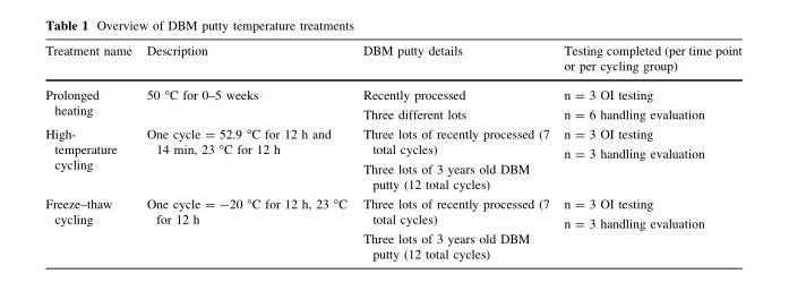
<table><thead><tr><td>Treatment name</td><td>Description</td><td>DBM putty details</td><td>Testing completed (per time point or per cycling group)</td></tr></thead><tbody><tr><td>Prolonged heating</td><td>50 °C for 0–5 weeks</td><td>Recently processed Three different lots</td><td>n = 3 OI testing n = 6 handling evaluation</td></tr><tr><td>High- temperature cycling</td><td>One cycle = 52.9 °C for 12 h and 14 min, 23 °C for 12 h</td><td>Three lots of recently processed (7 total cycles) Three lots of 3 years old DBM putty (12 total cycles)</td><td>n = 3 OI testing n = 3 handling evaluation</td></tr><tr><td>Freeze–thaw cycling</td><td>One cycle = -20 °C for 12 h, 23 °C for 12 h</td><td>Three lots of recently processed (7 total cycles) Three lots of 3 years old DBM putty (12 total cycles)</td><td>n = 3 OI testing n = 3 handling evaluation</td></tr></tbody></table>